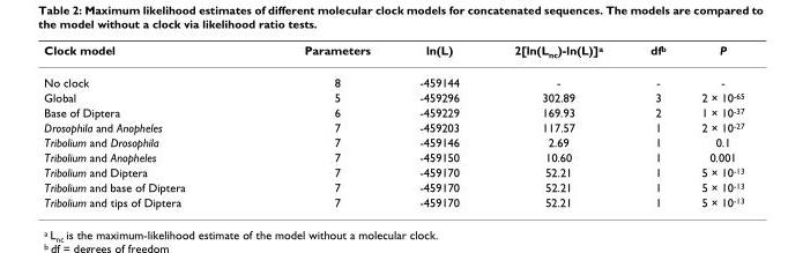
<table><thead><tr><td>Clock model</td><td>Parameters</td><td>ln(L)</td><td>2[ln(L<sub>nc</sub>)-ln(L)]<sup>a</sup></td><td>df<sup>b</sup></td><td>P</td></tr></thead><tbody><tr><td>No clock</td><td>8</td><td>-459144</td><td>-</td><td>-</td><td>-</td></tr><tr><td>Global</td><td>5</td><td>-459296</td><td>302.89</td><td>3</td><td>2 × 10<sup>-65</sup></td></tr><tr><td>Base of Diptera</td><td>6</td><td>-459229</td><td>169.93</td><td>2</td><td>1 × 10<sup>-37</sup></td></tr><tr><td>Drosophila and Anopheles</td><td>7</td><td>-459203</td><td>117.57</td><td>1</td><td>2 × 10<sup>-27</sup></td></tr><tr><td>Tribolium and Drosophila</td><td>7</td><td>-459146</td><td>2.69</td><td>1</td><td>0.1</td></tr><tr><td>Tribolium and Anopheles</td><td>7</td><td>-459150</td><td>10.60</td><td>1</td><td>0.001</td></tr><tr><td>Tribolium and Diptera</td><td>7</td><td>-459170</td><td>52.21</td><td>1</td><td>5 × 10<sup>-13</sup></td></tr><tr><td>Tribolium and base of Diptera</td><td>7</td><td>-459170</td><td>52.21</td><td>1</td><td>5 × 10<sup>-13</sup></td></tr><tr><td>Tribolium and tips of Diptera</td><td>7</td><td>-459170</td><td>52.21</td><td>1</td><td>5 × 10<sup>-13</sup></td></tr></tbody></table>